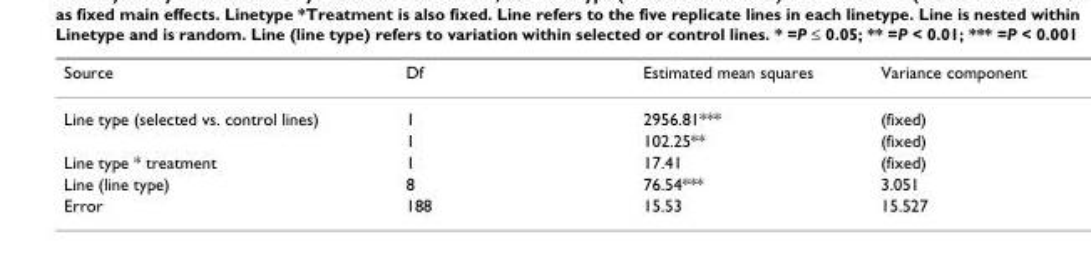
<table><thead><tr><td>Source</td><td>Df</td><td>Estimated mean squares</td><td>Variance component</td></tr></thead><tbody><tr><td rowspan="2">Line type (selected vs. control lines)</td><td>1</td><td>2956.81***</td><td>(fixed)</td></tr><tr><td>1</td><td>102.25**</td><td>(fixed)</td></tr><tr><td>Line type * treatment</td><td>1</td><td>17.41</td><td>(fixed)</td></tr><tr><td>Line (line type)</td><td>8</td><td>76.54***</td><td>3.051</td></tr><tr><td>Error</td><td>188</td><td>15.53</td><td>15.527</td></tr></tbody></table>